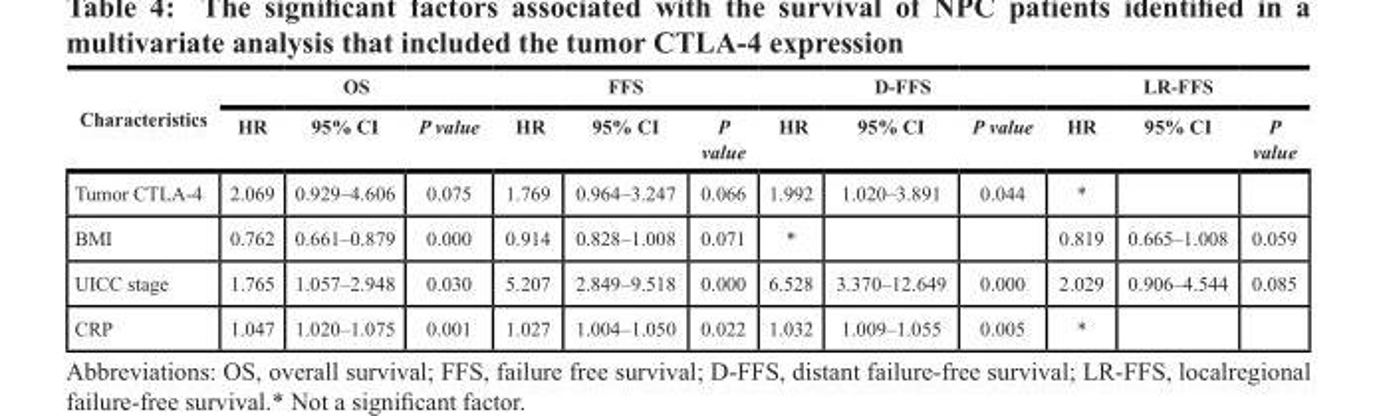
<table><thead><tr><td rowspan="2">Characteristics</td><td colspan="3">OS</td><td colspan="3">FFS</td><td colspan="3">D-FFS</td><td colspan="3">LR-FFS</td></tr><tr><td>HR</td><td>95% CI</td><td>P value</td><td>HR</td><td>95% CI</td><td>P value</td><td>HR</td><td>95% CI</td><td>P value</td><td>HR</td><td>95% CI</td><td>P value</td></tr></thead><tbody><tr><td>Tumor CTLA-4</td><td>2.069</td><td>0.929–4.606</td><td>0.075</td><td>1.769</td><td>0.964–3.247</td><td>0.066</td><td>1.992</td><td>1.020–3.891</td><td>0.044</td><td>*</td><td></td><td></td></tr><tr><td>BMI</td><td>0.762</td><td>0.661–0.879</td><td>0.000</td><td>0.914</td><td>0.828–1.008</td><td>0.071</td><td>*</td><td></td><td></td><td>0.819</td><td>0.665–1.008</td><td>0.059</td></tr><tr><td>UICC stage</td><td>1.765</td><td>1.057–2.948</td><td>0.030</td><td>5.207</td><td>2.849–9.518</td><td>0.000</td><td>6.528</td><td>3.370–12.649</td><td>0.000</td><td>2.029</td><td>0.906–4.544</td><td>0.085</td></tr><tr><td>CRP</td><td>1.047</td><td>1.020–1.075</td><td>0.001</td><td>1.027</td><td>1.004–1.050</td><td>0.022</td><td>1.032</td><td>1.009–1.055</td><td>0.005</td><td>*</td><td></td><td></td></tr></tbody></table>